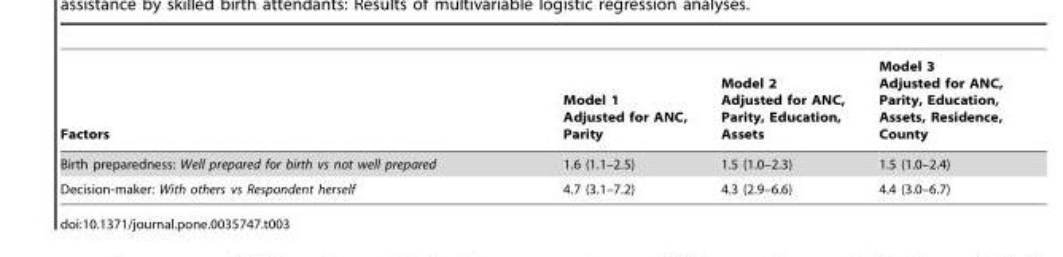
<table><thead><tr><td>Factors</td><td>Model 1 Adjusted for ANC, Parity</td><td>Model 2 Adjusted for ANC, Parity, Education, Assets</td><td>Model 3 Adjusted for ANC, Parity, Education, Assets, Residence, County</td></tr></thead><tbody><tr><td>Birth preparedness: Well prepared for birth vs not well prepared</td><td>1.6 (1.1–2.5)</td><td>1.5 (1.0–2.3)</td><td>1.5 (1.0–2.4)</td></tr><tr><td>Decision-maker: With others vs Respondent herself</td><td>4.7 (3.1–7.2)</td><td>4.3 (2.9–6.6)</td><td>4.4 (3.0–6.7)</td></tr></tbody></table>